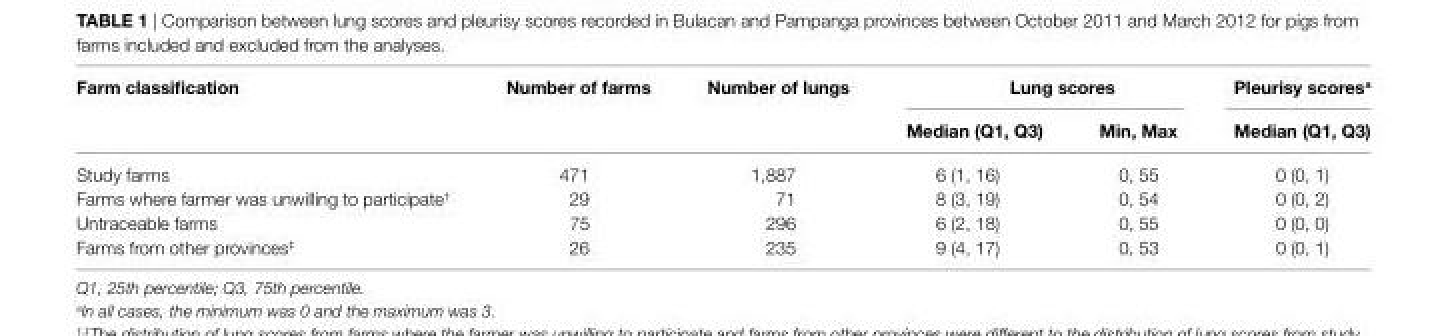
<table><thead><tr><td rowspan="2">Farm classification</td><td rowspan="2">number of farms</td><td rowspan="2">number of lungs</td><td colspan="2">lung scores</td><td rowspan="2">Pleurisy scores<sup>a</sup> Median (Q1, Q3)</td></tr><tr><td>Median (Q1, Q3)</td><td>Min, Max</td></tr></thead><tbody><tr><td>Study farms</td><td>471</td><td>1,887</td><td>6 (1, 16)</td><td>0, 55</td><td>0 (0, 1)</td></tr><tr><td>Farms where farmer was unwilling to participate<sup>†</sup></td><td>29</td><td>71</td><td>8 (3, 19)</td><td>0, 54</td><td>0 (0, 2)</td></tr><tr><td>Untraceable farms</td><td>75</td><td>296</td><td>6 (2, 18)</td><td>0, 55</td><td>0 (0, 0)</td></tr><tr><td>Farms from other provinces<sup>‡</sup></td><td>26</td><td>235</td><td>9 (4, 17)</td><td>0, 53</td><td>0 (0, 1)</td></tr></tbody></table>